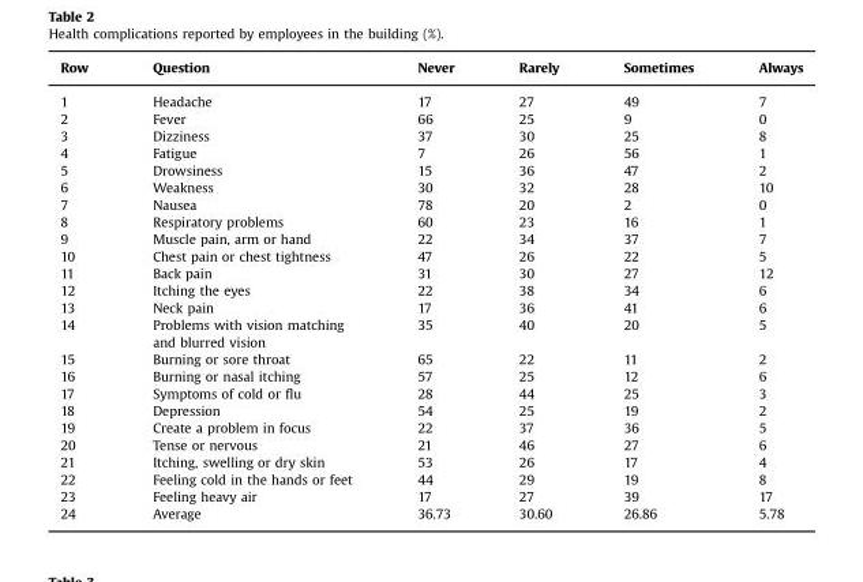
<table><thead><tr><td>Row</td><td>Question</td><td>Never</td><td>Rarely</td><td>Sometimes</td><td>Always</td></tr></thead><tbody><tr><td>1</td><td>Headache</td><td>17</td><td>27</td><td>49</td><td>7</td></tr><tr><td>2</td><td>Fever</td><td>66</td><td>25</td><td>9</td><td>0</td></tr><tr><td>3</td><td>Dizziness</td><td>37</td><td>30</td><td>25</td><td>8</td></tr><tr><td>4</td><td>Fatigue</td><td>7</td><td>26</td><td>56</td><td>1</td></tr><tr><td>5</td><td>Drowsiness</td><td>15</td><td>36</td><td>47</td><td>2</td></tr><tr><td>6</td><td>Weakness</td><td>30</td><td>32</td><td>28</td><td>10</td></tr><tr><td>7</td><td>Nausea</td><td>78</td><td>20</td><td>2</td><td>0</td></tr><tr><td>8</td><td>Respiratory problems</td><td>60</td><td>23</td><td>16</td><td>1</td></tr><tr><td>9</td><td>Muscle pain, arm or hand</td><td>22</td><td>34</td><td>37</td><td>7</td></tr><tr><td>10</td><td>Chest pain or chest tightness</td><td>47</td><td>26</td><td>22</td><td>5</td></tr><tr><td>11</td><td>Back pain</td><td>31</td><td>30</td><td>27</td><td>12</td></tr><tr><td>12</td><td>Itching the eyes</td><td>22</td><td>38</td><td>34</td><td>6</td></tr><tr><td>13</td><td>Neck pain</td><td>17</td><td>36</td><td>41</td><td>6</td></tr><tr><td>14</td><td>Problems with vision matching and blurred vision</td><td>35</td><td>40</td><td>20</td><td>5</td></tr><tr><td>15</td><td>Burning or sore throat</td><td>65</td><td>22</td><td>11</td><td>2</td></tr><tr><td>16</td><td>Burning or nasal itching</td><td>57</td><td>25</td><td>12</td><td>6</td></tr><tr><td>17</td><td>Symptoms of cold or flu</td><td>28</td><td>44</td><td>25</td><td>3</td></tr><tr><td>18</td><td>Depression</td><td>54</td><td>25</td><td>19</td><td>2</td></tr><tr><td>19</td><td>Create a problem in focus</td><td>22</td><td>37</td><td>36</td><td>5</td></tr><tr><td>20</td><td>Tense or nervous</td><td>21</td><td>46</td><td>27</td><td>6</td></tr><tr><td>21</td><td>Itching, swelling or dry skin</td><td>53</td><td>26</td><td>17</td><td>4</td></tr><tr><td>22</td><td>Feeling cold in the hands or feet</td><td>44</td><td>29</td><td>19</td><td>8</td></tr><tr><td>23</td><td>Feeling heavy air</td><td>17</td><td>27</td><td>39</td><td>17</td></tr><tr><td>24</td><td>Average</td><td>36.73</td><td>30.60</td><td>26.86</td><td>5.78</td></tr></tbody></table>